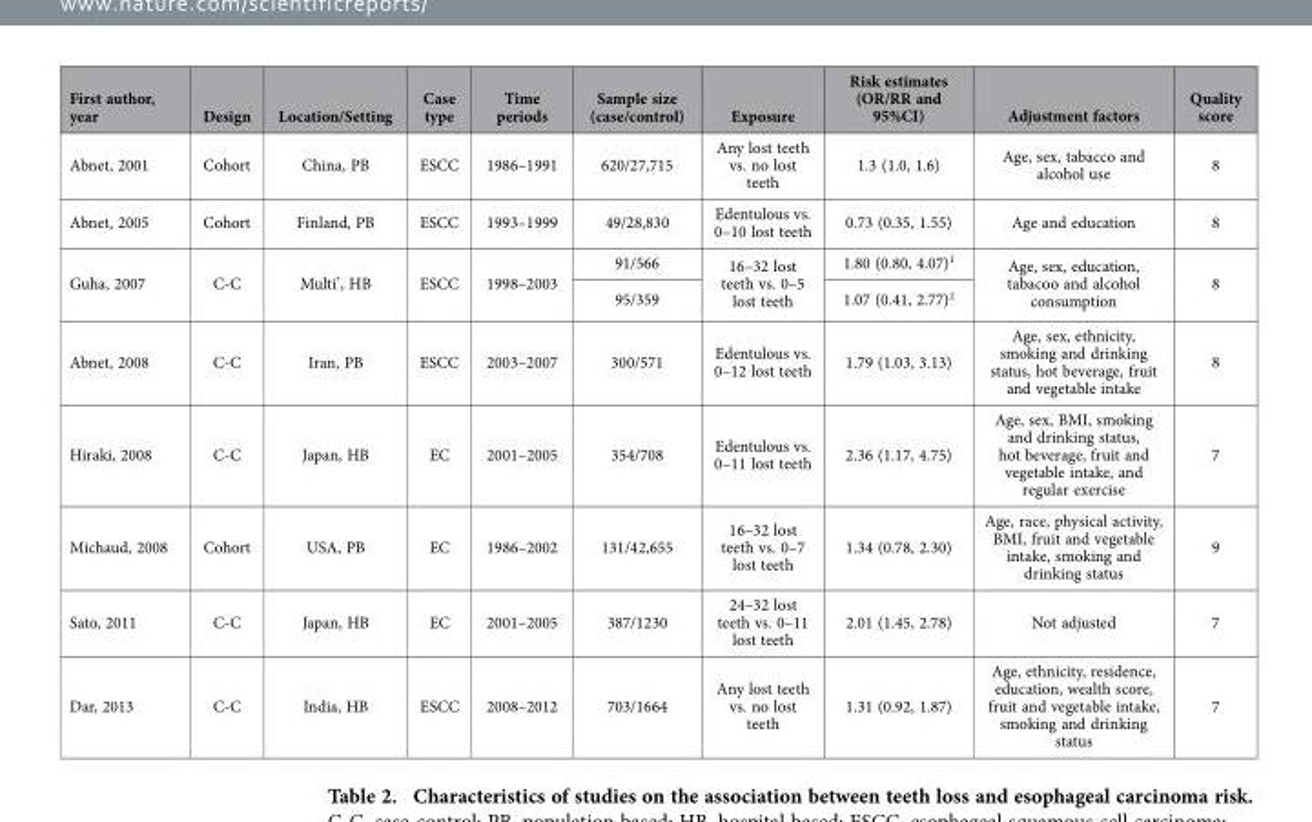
<table><thead><tr><td>First author, year</td><td>Design</td><td>Location/Setting</td><td>Case type</td><td>Time periods</td><td>Sample size (case/control)</td><td>Exposure</td><td>Risk estimates (OR/RR and 95%CI)</td><td>Adjustment factors</td><td>Quality score</td></tr></thead><tbody><tr><td>Abnet, 2001</td><td>Cohort</td><td>China, PB</td><td>ESCC</td><td>1986–1991</td><td>620/27,715</td><td>Any lost teeth vs. no lost teeth</td><td>1.3 (1.0, 1.6)</td><td>Age, sex, tabacco and alcohol use</td><td>8</td></tr><tr><td>Abnet, 2005</td><td>Cohort</td><td>Finland, PB</td><td>ESCC</td><td>1993–1999</td><td>49/28,830</td><td>Edentulous vs. 0–10 lost teeth</td><td>0.73 (0.35, 1.55)</td><td>Age and education</td><td>8</td></tr><tr><td rowspan="2">Guha, 2007</td><td rowspan="2">C-C</td><td rowspan="2">Multi*, HB</td><td rowspan="2">ESCC</td><td rowspan="2">1998–2003</td><td>91/566</td><td rowspan="2">16–32 lost teeth vs. 0–5 lost teeth</td><td>1.80 (0.80, 4.07)<sup>1</sup></td><td rowspan="2">Age, sex, education, tabacoo and alcohol consumption</td><td rowspan="2">8</td></tr><tr><td>95/359</td><td>1.07 (0.41, 2.77)<sup>2</sup></td></tr><tr><td>Abnet, 2008</td><td>C-C</td><td>Iran, PB</td><td>ESCC</td><td>2003–2007</td><td>300/571</td><td>Edentulous vs. 0–12 lost teeth</td><td>1.79 (1.03, 3.13)</td><td>Age, sex, ethnicity, smoking and drinking status, hot beverage, fruit and vegetable intake</td><td>8</td></tr><tr><td>Hiraki, 2008</td><td>C-C</td><td>Japan, HB</td><td>EC</td><td>2001–2005</td><td>354/708</td><td>Edentulous vs. 0–11 lost teeth</td><td>2.36 (1.17, 4.75)</td><td>Age, sex, BMI, smoking and drinking status, hot beverage, fruit and vegetable intake, and regular exercise</td><td>7</td></tr><tr><td>Michaud, 2008</td><td>Cohort</td><td>USA, PB</td><td>EC</td><td>1986–2002</td><td>131/42,655</td><td>16–32 lost teeth vs. 0–7 lost teeth</td><td>1.34 (0.78, 2.30)</td><td>Age, race, physical activity, BMI, fruit and vegetable intake, smoking and drinking status</td><td>9</td></tr><tr><td>Sato, 2011</td><td>C-C</td><td>Japan, HB</td><td>EC</td><td>2001–2005</td><td>387/1230</td><td>24–32 lost teeth vs. 0–11 lost teeth</td><td>2.01 (1.45, 2.78)</td><td>Not adjusted</td><td>7</td></tr><tr><td>Dar, 2013</td><td>C-C</td><td>India, HB</td><td>ESCC</td><td>2008–2012</td><td>703/1664</td><td>Any lost teeth vs. no lost teeth</td><td>1.31 (0.92, 1.87)</td><td>Age, ethnicity, residence, education, wealth score, fruit and vegetable intake, smoking and drinking status</td><td>7</td></tr></tbody></table>